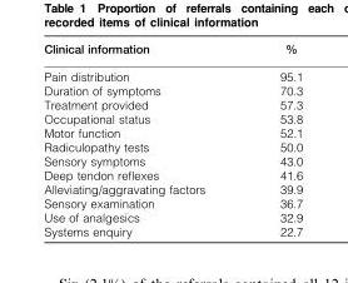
<table><thead><tr><td>Clinical information</td><td>%</td></tr></thead><tbody><tr><td>Pain distribution</td><td>95.1</td></tr><tr><td>Duration of symptoms</td><td>70.3</td></tr><tr><td>Treatment provided</td><td>57.3</td></tr><tr><td>Occupational status</td><td>53.8</td></tr><tr><td>Motor function</td><td>52.1</td></tr><tr><td>Radiculopathy tests</td><td>50.0</td></tr><tr><td>Sensory symptoms</td><td>43.0</td></tr><tr><td>Deep tendon reflexes</td><td>41.6</td></tr><tr><td>Alleviating/aggravating factors</td><td>39.9</td></tr><tr><td>Sensory examination</td><td>36.7</td></tr><tr><td>Use of analgesics</td><td>32.9</td></tr><tr><td>Systems enquiry</td><td>22.7</td></tr></tbody></table>